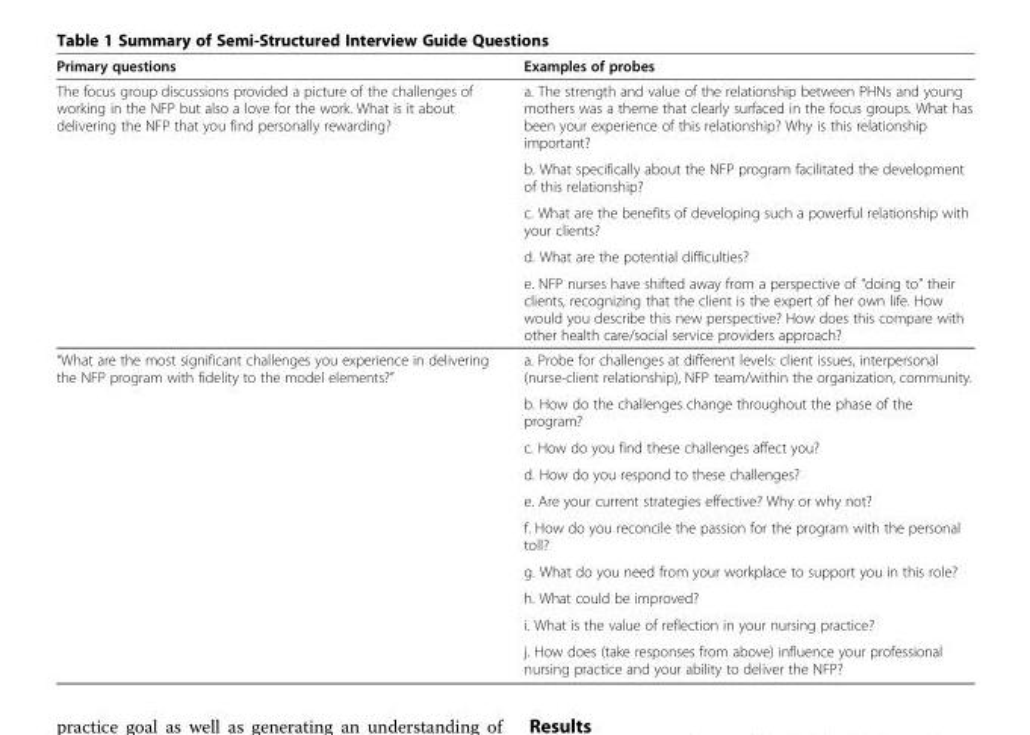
<table><thead><tr><td>Primary questions</td><td>Examples of probes</td></tr></thead><tbody><tr><td rowspan="5">The focus group discussions provided a picture of the challenges of working in the NFP but also a love for the work. What is it about delivering the NFP that you find personally rewarding?</td><td>a. The strength and value of the relationship between PHNs and young mothers was a theme that clearly surfaced in the focus groups. What has been your experience of this relationship? Why is this relationship important?</td></tr><tr><td>b. What specifically about the NFP program facilitated the development of this relationship?</td></tr><tr><td>c. What are the benefits of developing such a powerful relationship with your clients?</td></tr><tr><td>d. What are the potential difficulties?</td></tr><tr><td>e. NFP nurses have shifted away from a perspective of “doing to” their clients, recognizing that the client is the expert of her own life. How would you describe this new perspective? How does this compare with other health care/social service providers approach?</td></tr><tr><td rowspan="10">“What are the most significant challenges you experience in delivering the NFP program with fidelity to the model elements?”</td><td>a. Probe for challenges at different levels: client issues, interpersonal (nurse-client relationship), NFP team/within the organization, community.</td></tr><tr><td>b. How do the challenges change throughout the phase of the program?</td></tr><tr><td>c. How do you find these challenges affect you?</td></tr><tr><td>d. How do you respond to these challenges?</td></tr><tr><td>e. Are your current strategies effective? Why or why not?</td></tr><tr><td>f. How do you reconcile the passion for the program with the personal toll?</td></tr><tr><td>g. What do you need from your workplace to support you in this role?</td></tr><tr><td>h. What could be improved?</td></tr><tr><td>i. What is the value of reflection in your nursing practice?</td></tr><tr><td>j. How does (take responses from above) influence your professional nursing practice and your ability to deliver the NFP?</td></tr></tbody></table>